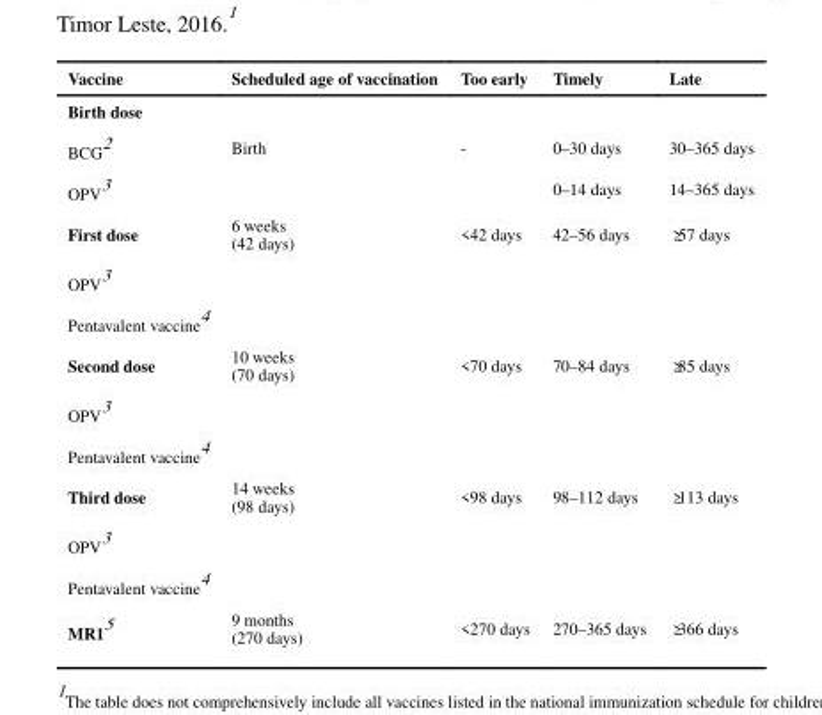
<table><thead><tr><td>Vaccine</td><td>Scheduled age of vaccination</td><td>Too early</td><td>Timely</td><td>Late</td></tr></thead><tbody><tr><td colspan="5">Birth dose</td></tr><tr><td>BCG<sup>2</sup></td><td>Birth</td><td>-</td><td>0–30 days</td><td>30–365 days</td></tr><tr><td>OPV<sup>3</sup></td><td></td><td></td><td>0–14 days</td><td>14–365 days</td></tr><tr><td>First dose</td><td>6 weeks (42 days)</td><td>&lt;42 days</td><td>42–56 days</td><td>≥57 days</td></tr><tr><td colspan="5">OPV<sup>3</sup></td></tr><tr><td colspan="5">Pentavalent vaccine<sup>4</sup></td></tr><tr><td>Second dose</td><td>10 weeks (70 days)</td><td>&lt;70 days</td><td>70–84 days</td><td>≥85 days</td></tr><tr><td colspan="5">OPV<sup>3</sup></td></tr><tr><td colspan="5">Pentavalent vaccine<sup>4</sup></td></tr><tr><td>Third dose</td><td>14 weeks (98 days)</td><td>&lt;98 days</td><td>98–112 days</td><td>≥113 days</td></tr><tr><td colspan="5">OPV<sup>3</sup></td></tr><tr><td colspan="5">Pentavalent vaccine<sup>4</sup></td></tr><tr><td>MR1<sup>5</sup></td><td>9 months (270 days)</td><td>&lt;270 days</td><td>270–365 days</td><td>≥366 days</td></tr></tbody></table>